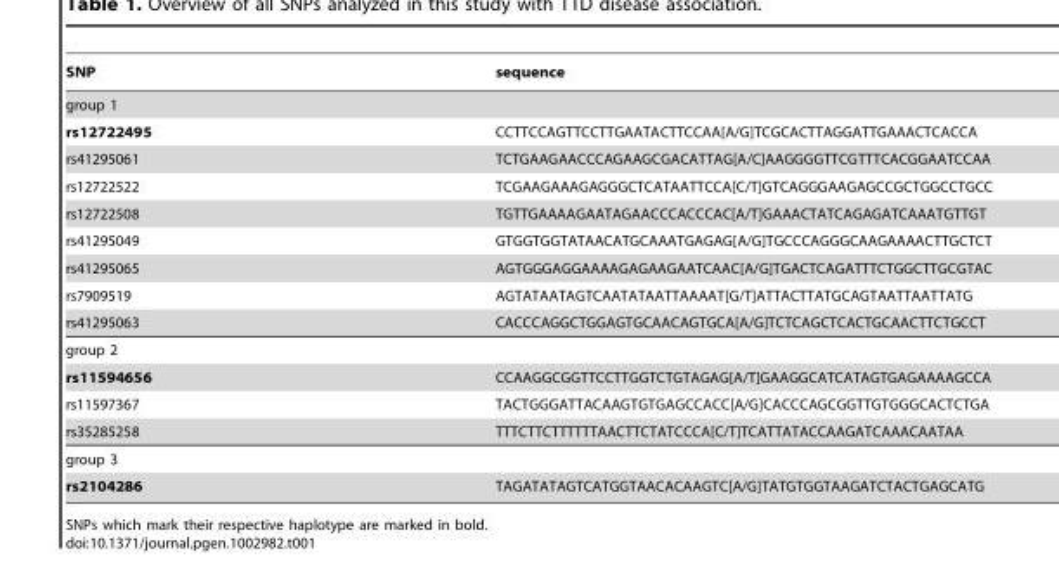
<table><thead><tr><td>SNP</td><td>sequence</td></tr></thead><tbody><tr><td colspan="2">group 1</td></tr><tr><td>rs12722495</td><td>CCTTCCAGTTCCTTGAATACTTCCAA[A/G]TCGCACTTAGGATTGAAACTCACCA</td></tr><tr><td>rs41295061</td><td>TCTGAAGAACCCAGAAGCGACATTAG[A/C]AAGGGGTTCGTTTCACGGAATCCAA</td></tr><tr><td>rs12722522</td><td>TCGAAGAAAGAGGGCTCATAATTCCA[C/T]GTCAGGGAAGAGCCGCTGGCCTGCC</td></tr><tr><td>rs12722508</td><td>TGTTGAAAAGAATAGAACCCACCCAC[A/T]GAAACTATCAGAGATCAAATGTTGT</td></tr><tr><td>rs41295049</td><td>GTGGTGGTATAACATGCAAATGAGAG[A/G]TGCCCAGGGCAAGAAAACTTGCTCT</td></tr><tr><td>rs41295065</td><td>AGTGGGAGGAAAAGAGAAGAATCAAC[A/G]TGACTCAGATTTCTGGCTTGCGTAC</td></tr><tr><td>rs7909519</td><td>AGTATAATAGTCAATATAATTAAAAT[G/T]ATTACTTATGCAGTAATTAATTATG</td></tr><tr><td>rs41295063</td><td>CACCCAGGCTGGAGTGCAACAGTGCA[A/G]TCTCAGCTCACTGCAACTTCTGCCT</td></tr><tr><td colspan="2">group 2</td></tr><tr><td>rs11594656</td><td>CCAAGGCGGTTCCTTGGTCTGTAGAG[A/T]GAAGGCATCATAGTGAGAAAAGCCA</td></tr><tr><td>rs11597367</td><td>TACTGGGATTACAAGTGTGAGCCACC[A/G]CACCCAGCGGTTGTGGGCACTCTGA</td></tr><tr><td>rs35285258</td><td>TTTCTTCTTTTTTAACTTCTATCCCA[C/T]TCATTATACCAAGATCAAACAATAA</td></tr><tr><td colspan="2">group 3</td></tr><tr><td>rs2104286</td><td>TAGATATAGTCATGGTAACACAAGTC[A/G]TATGTGGTAAGATCTACTGAGCATG</td></tr></tbody></table>